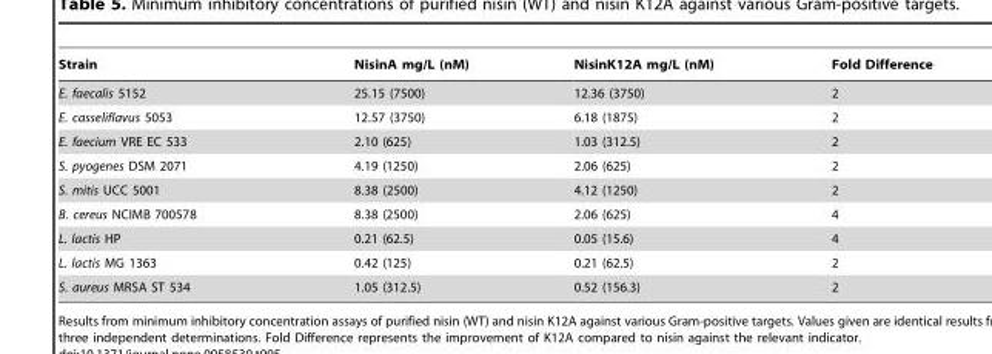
<table><thead><tr><td>Strain</td><td>NisinA mg/L (nM)</td><td>NisinK12A mg/L (nM)</td><td>Fold Difference</td></tr></thead><tbody><tr><td>E. faecalis 5152</td><td>25.15 (7500)</td><td>12.36 (3750)</td><td>2</td></tr><tr><td>E. casseliflavus 5053</td><td>12.57 (3750)</td><td>6.18 (1875)</td><td>2</td></tr><tr><td>E. faecium VRE EC 533</td><td>2.10 (625)</td><td>1.03 (312.5)</td><td>2</td></tr><tr><td>S. pyogenes DSM 2071</td><td>4.19 (1250)</td><td>2.06 (625)</td><td>2</td></tr><tr><td>S. mitis UCC 5001</td><td>8.38 (2500)</td><td>4.12 (1250)</td><td>2</td></tr><tr><td>B. cereus NCIMB 700578</td><td>8.38 (2500)</td><td>2.06 (625)</td><td>4</td></tr><tr><td>L. lactis HP</td><td>0.21 (62.5)</td><td>0.05 (15.6)</td><td>4</td></tr><tr><td>L. lactis MG 1363</td><td>0.42 (125)</td><td>0.21 (62.5)</td><td>2</td></tr><tr><td>S. aureus MRSA ST 534</td><td>1.05 (312.5)</td><td>0.52 (156.3)</td><td>2</td></tr></tbody></table>